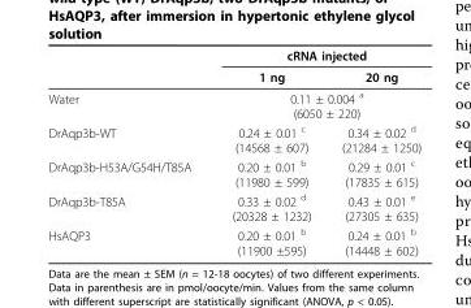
<table><thead><tr><td rowspan="2"></td><td colspan="2">cRNA injected</td></tr><tr><td>1 ng</td><td>20 ng</td></tr></thead><tbody><tr><td>Water</td><td colspan="2">0.11 ± 0.004 <sup>a</sup> (6050 ± 220)</td></tr><tr><td>DrAqp3b-WT</td><td>0.24 ± 0.01 <sup>c</sup> (14568 ± 607)</td><td>0.34 ± 0.02 <sup>d</sup> (21284 ± 1250)</td></tr><tr><td>DrAqp3b-H53A/G54H/T85A</td><td>0.20 ± 0.01 <sup>b</sup> (11980 ± 599)</td><td>0.29 ± 0.01 <sup>c</sup> (17835 ± 615)</td></tr><tr><td>DrAqp3b-T85A</td><td>0.33 ± 0.02 <sup>d</sup> (20328 ± 1232)</td><td>0.43 ± 0.01 <sup>e</sup> (27305 ± 635)</td></tr><tr><td>HsAQP3</td><td>0.20 ± 0.01 <sup>b</sup> (11900 ±595)</td><td>0.24 ± 0.01 <sup>b</sup> (14448 ± 602)</td></tr></tbody></table>